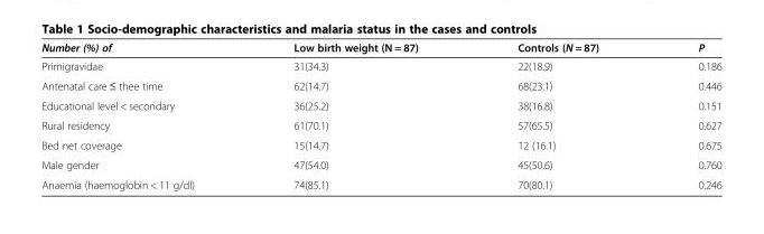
<table><thead><tr><td>Number (%) of</td><td>Low birth weight (N = 87)</td><td>Controls (N = 87)</td><td>P</td></tr></thead><tbody><tr><td>Primigravidae</td><td>31(34.3)</td><td>22(18.9)</td><td>0.186</td></tr><tr><td>Antenatal care ≤ thee time</td><td>62(14.7)</td><td>68(23.1)</td><td>0.446</td></tr><tr><td>Educational level &lt; secondary</td><td>36(25.2)</td><td>38(16.8)</td><td>0.151</td></tr><tr><td>Rural residency</td><td>61(70.1)</td><td>57(65.5)</td><td>0.627</td></tr><tr><td>Bed net coverage</td><td>15(14.7)</td><td>12 (16.1)</td><td>0.675</td></tr><tr><td>Male gender</td><td>47(54.0)</td><td>45(50.6)</td><td>0.760</td></tr><tr><td>Anaemia (haemoglobin &lt; 11 g/dl)</td><td>74(85.1)</td><td>70(80.1)</td><td>0.246</td></tr></tbody></table>